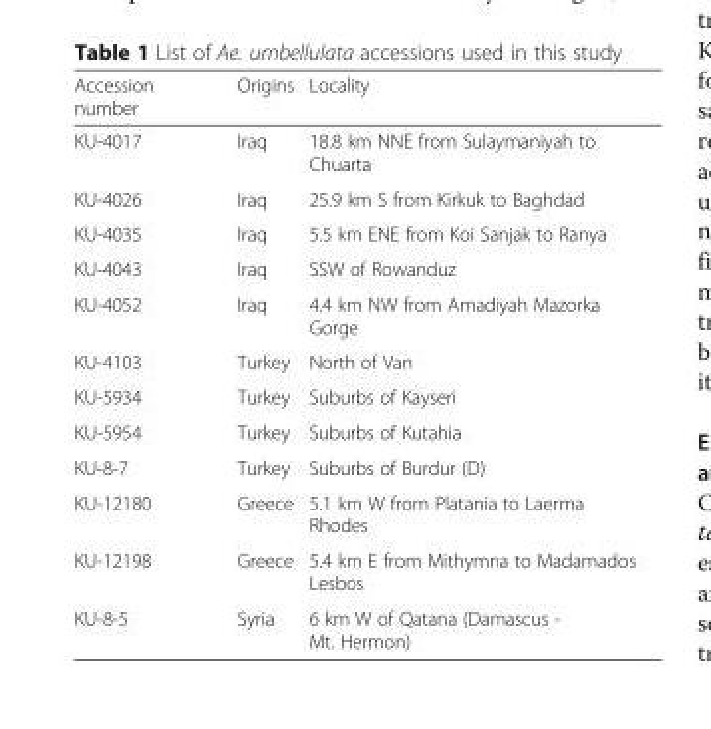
<table><thead><tr><td>Accession number</td><td>Origins</td><td>Locality</td></tr></thead><tbody><tr><td>KU-4017</td><td>Iraq</td><td>18.8 km NNE from Sulaymaniyah to Chuarta</td></tr><tr><td>KU-4026</td><td>Iraq</td><td>25.9 km S from Kirkuk to Baghdad</td></tr><tr><td>KU-4035</td><td>Iraq</td><td>5.5 km ENE from Koi Sanjak to Ranya</td></tr><tr><td>KU-4043</td><td>Iraq</td><td>SSW of Rowanduz</td></tr><tr><td>KU-4052</td><td>Iraq</td><td>4.4 km NW from Amadiyah Mazorka Gorge</td></tr><tr><td>KU-4103</td><td>Turkey</td><td>North of Van</td></tr><tr><td>KU-5934</td><td>Turkey</td><td>Suburbs of Kayseri</td></tr><tr><td>KU-5954</td><td>Turkey</td><td>Suburbs of Kutahia</td></tr><tr><td>KU-8-7</td><td>Turkey</td><td>Suburbs of Burdur (D)</td></tr><tr><td>KU-12180</td><td>Greece</td><td>5.1 km W from Platania to Laerma Rhodes</td></tr><tr><td>KU-12198</td><td>Greece</td><td>5.4 km E from Mithymna to Madamados Lesbos</td></tr><tr><td>KU-8-5</td><td>Syria</td><td>6 km W of Qatana (Damascus - Mt. Hermon)</td></tr></tbody></table>